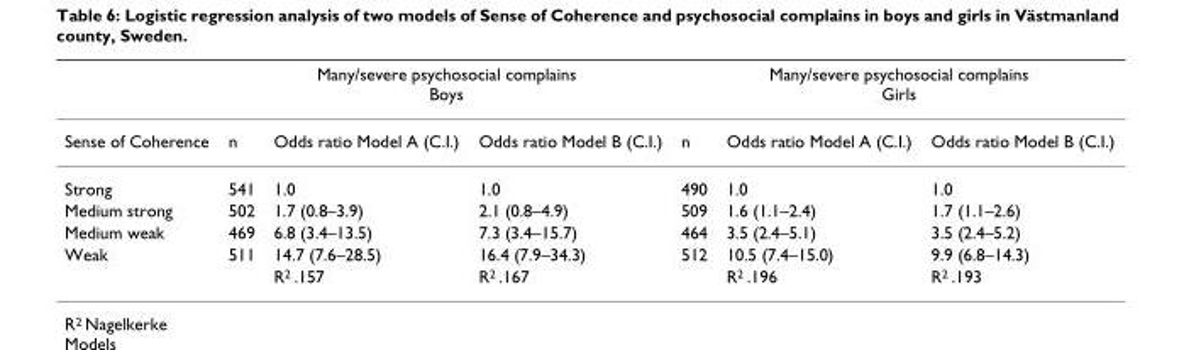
<table><thead><tr><td rowspan="2">Sense of Coherence</td><td colspan="3">Many/severe psychosocial complains Boys</td><td colspan="3">Many/severe psychosocial complains Girls</td></tr><tr><td>n</td><td>Odds ratio Model A (C.I.)</td><td>Odds ratio Model B (C.I.)</td><td>n</td><td>Odds ratio Model A (C.I.)</td><td>Odds ratio Model B (C.I.)</td></tr></thead><tbody><tr><td>Strong</td><td>541</td><td>1.0</td><td>1.0</td><td>490</td><td>1.0</td><td>1.0</td></tr><tr><td>Medium strong</td><td>502</td><td>1.7 (0.8–3.9)</td><td>2.1 (0.8–4.9)</td><td>509</td><td>1.6 (1.1–2.4)</td><td>1.7 (1.1–2.6)</td></tr><tr><td>Medium weak</td><td>469</td><td>6.8 (3.4–13.5)</td><td>7.3 (3.4–15.7)</td><td>464</td><td>3.5 (2.4–5.1)</td><td>3.5 (2.4–5.2)</td></tr><tr><td rowspan="2">Weak</td><td>511</td><td>14.7 (7.6–28.5)</td><td>16.4 (7.9–34.3)</td><td>512</td><td>10.5 (7.4–15.0)</td><td>9.9 (6.8–14.3)</td></tr><tr><td></td><td>R<sup>2</sup> .157</td><td>R<sup>2</sup> .167</td><td></td><td>R<sup>2</sup> .196</td><td>R<sup>2</sup> .193</td></tr></tbody></table>